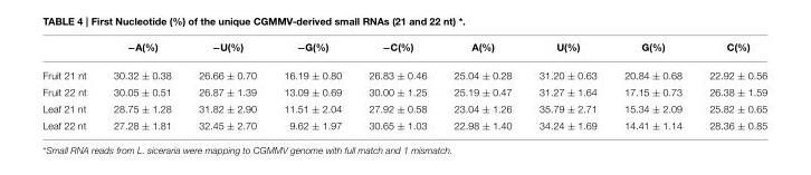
<table><thead><tr><td></td><td>−A(%)</td><td>−U(%)</td><td>−G(%)</td><td>−C(%)</td><td>A(%)</td><td>U(%)</td><td>G(%)</td><td>C(%)</td></tr></thead><tbody><tr><td>Fruit 21 nt</td><td>30.32 ± 0.38</td><td>26.66 ± 0.70</td><td>16.19 ± 0.80</td><td>26.83 ± 0.46</td><td>25.04 ± 0.28</td><td>31.20 ± 0.63</td><td>20.84 ± 0.68</td><td>22.92 ± 0.56</td></tr><tr><td>Fruit 22 nt</td><td>30.05 ± 0.51</td><td>26.87 ± 1.39</td><td>13.09 ± 0.69</td><td>30.00 ± 1.25</td><td>25.19 ± 0.47</td><td>31.27 ± 1.64</td><td>17.15 ± 0.73</td><td>26.38 ± 1.59</td></tr><tr><td>Leaf 21 nt</td><td>28.75 ± 1.28</td><td>31.82 ± 2.90</td><td>11.51 ± 2.04</td><td>27.92 ± 0.58</td><td>23.04 ± 1.26</td><td>35.79 ± 2.71</td><td>15.34 ± 2.09</td><td>25.82 ± 0.65</td></tr><tr><td>Leaf 22 nt</td><td>27.28 ± 1.81</td><td>32.45 ± 2.70</td><td>9.62 ± 1.97</td><td>30.65 ± 1.03</td><td>22.98 ± 1.40</td><td>34.24 ± 1.69</td><td>14.41 ± 1.14</td><td>28.36 ± 0.85</td></tr></tbody></table>